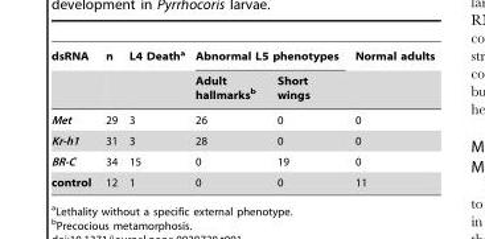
<table><thead><tr><td rowspan="2">dsRNA</td><td rowspan="2">n</td><td rowspan="2">L4 Death<sup>a</sup></td><td colspan="2">Abnormal L5 phenotypes</td><td rowspan="2">Normal adults</td></tr><tr><td>Adult hallmarks<sup>b</sup></td><td>Short wings</td></tr></thead><tbody><tr><td>Met</td><td>29</td><td>3</td><td>26</td><td>0</td><td>0</td></tr><tr><td>Kr-h1</td><td>31</td><td>3</td><td>28</td><td>0</td><td>0</td></tr><tr><td>BR-C</td><td>34</td><td>15</td><td>0</td><td>19</td><td>0</td></tr><tr><td>control</td><td>12</td><td>1</td><td>0</td><td>0</td><td>11</td></tr></tbody></table>